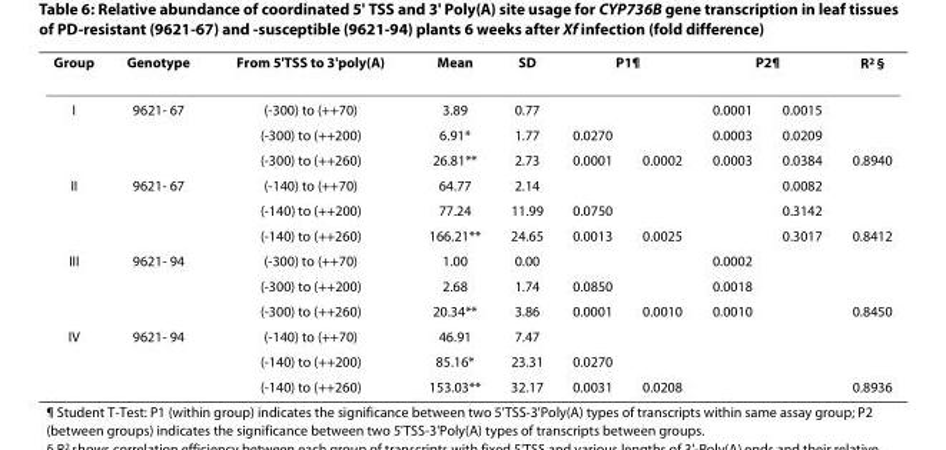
<table><thead><tr><td rowspan="2">Group I</td><td rowspan="2">Genotype 9621- 67</td><td rowspan="2">From 5&#x27;TSS to 3&#x27;poly(A) (-300) to (++70)</td><td rowspan="2">Mean 3.89</td><td rowspan="2">SD 0.77</td><td colspan="2">P1¶</td><td colspan="2">P2¶</td><td rowspan="2">R<sup>2</sup> §</td></tr><tr><td></td><td></td><td>0.0001</td><td>0.0015</td></tr></thead><tbody><tr><td></td><td></td><td>(-300) to (++200)</td><td>6.91*</td><td>1.77</td><td>0.0270</td><td></td><td>0.0003</td><td>0.0209</td><td></td></tr><tr><td></td><td></td><td>(-300) to (++260)</td><td>26.81**</td><td>2.73</td><td>0.0001</td><td>0.0002</td><td>0.0003</td><td>0.0384</td><td>0.8940</td></tr><tr><td rowspan="3">II</td><td>9621- 67</td><td>(-140) to (++70)</td><td>64.77</td><td>2.14</td><td></td><td></td><td></td><td>0.0082</td><td></td></tr><tr><td></td><td>(-140) to (++200)</td><td>77.24</td><td>11.99</td><td>0.0750</td><td></td><td></td><td>0.3142</td><td></td></tr><tr><td></td><td>(-140) to (++260)</td><td>166.21**</td><td>24.65</td><td>0.0013</td><td>0.0025</td><td></td><td>0.3017</td><td>0.8412</td></tr><tr><td rowspan="3">III</td><td>9621- 94</td><td>(-300) to (++70)</td><td>1.00</td><td>0.00</td><td></td><td></td><td>0.0002</td><td></td><td></td></tr><tr><td></td><td>(-300) to (++200)</td><td>2.68</td><td>1.74</td><td>0.0850</td><td></td><td>0.0018</td><td></td><td></td></tr><tr><td></td><td>(-300) to (++260)</td><td>20.34**</td><td>3.86</td><td>0.0001</td><td>0.0010</td><td>0.0010</td><td></td><td>0.8450</td></tr><tr><td rowspan="3">IV</td><td>9621- 94</td><td>(-140) to (++70)</td><td>46.91</td><td>7.47</td><td></td><td></td><td></td><td></td><td></td></tr><tr><td></td><td>(-140) to (++200)</td><td>85.16*</td><td>23.31</td><td>0.0270</td><td></td><td></td><td></td><td></td></tr><tr><td></td><td>(-140) to (++260)</td><td>153.03**</td><td>32.17</td><td>0.0031</td><td>0.0208</td><td></td><td></td><td>0.8936</td></tr></tbody></table>